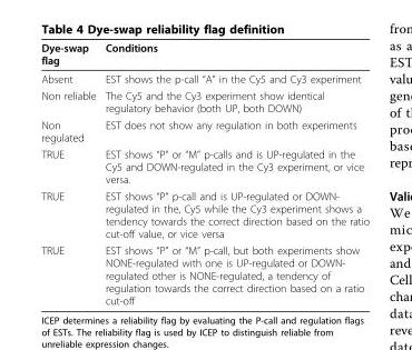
<table><thead><tr><td>Dye-swap flag</td><td>Conditions</td></tr></thead><tbody><tr><td>Absent</td><td>EST shows the p-call “A” in the Cy5 and Cy3 experiment</td></tr><tr><td>Non reliable</td><td>The Cy5 and the Cy3 experiment show identical regulatory behavior (both UP, both DOWN)</td></tr><tr><td>Non regulated</td><td>EST does not show any regulation in both experiments</td></tr><tr><td>TRUE</td><td>EST shows “P” or “M” p-calls and is UP-regulated in the Cy5 and DOWN-regulated in the Cy3 experiment, or vice versa.</td></tr><tr><td>TRUE</td><td>EST shows “P” p-call and is UP-regulated or DOWN- regulated in the, Cy5 while the Cy3 experiment shows a tendency towards the correct direction based on the ratio cut-off value, or vice versa</td></tr><tr><td>TRUE</td><td>EST shows “P” or “M” p-call, but both experiments show NONE-regulated with one is UP-regulated or DOWN- regulated other is NONE-regulated, a tendency of regulation towards the correct direction based on a ratio cut-off</td></tr></tbody></table>